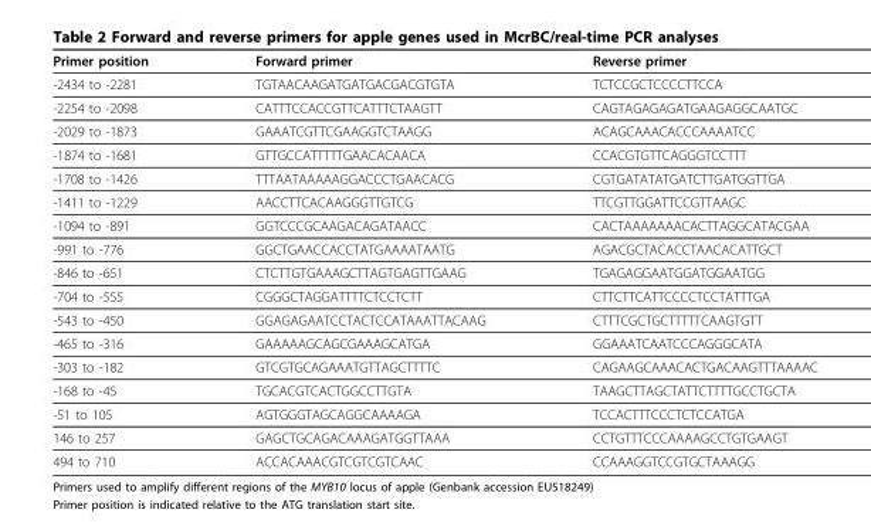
<table><thead><tr><td>Primer position</td><td>Forward primer</td><td>Reverse primer</td></tr></thead><tbody><tr><td>-2434 to -2281</td><td>TGTAACAAGATGATGACGACGTGTA</td><td>TCTCCGCTCCCCTTCCA</td></tr><tr><td>-2254 to -2098</td><td>CATTTCCACCGTTCATTTCTAAGTT</td><td>CAGTAGAGAGATGAAGAGGCAATGC</td></tr><tr><td>-2029 to -1873</td><td>GAAATCGTTCGAAGGTCTAAGG</td><td>ACAGCAAACACCCAAAATCC</td></tr><tr><td>-1874 to -1681</td><td>GTTGCCATTTTTGAACACAACA</td><td>CCACGTGTTCAGGGTCCTTT</td></tr><tr><td>-1708 to -1426</td><td>TTTAATAAAAAGGACCCTGAACACG</td><td>CGTGATATATGATCTTGATGGTTGA</td></tr><tr><td>-1411 to -1229</td><td>AACCTTCACAAGGGTTGTCG</td><td>TTCGTTGGATTCCGTTAAGC</td></tr><tr><td>-1094 to -891</td><td>GGTCCCGCAAGACAGATAACC</td><td>CACTAAAAAAACACTTAGGCATACGAA</td></tr><tr><td>-991 to -776</td><td>GGCTGAACCACCTATGAAAATAATG</td><td>AGACGCTACACCTAACACATTGCT</td></tr><tr><td>-846 to -651</td><td>CTCTTGTGAAAGCTTAGTGAGTTGAAG</td><td>TGAGAGGAATGGATGGAATGG</td></tr><tr><td>-704 to -555</td><td>CGGGCTAGGATTTTCTCCTCTT</td><td>CTTCTTCATTCCCCTCCTATTTGA</td></tr><tr><td>-543 to -450</td><td>GGAGAGAATCCTACTCCATAAATTACAAG</td><td>CTTTCGCTGCTTTTTCAAGTGTT</td></tr><tr><td>-465 to -316</td><td>GAAAAAGCAGCGAAAGCATGA</td><td>GGAAATCAATCCCAGGGCATA</td></tr><tr><td>-303 to -182</td><td>GTCGTGCAGAAATGTTAGCTTTTC</td><td>CAGAAGCAAACACTGACAAGTTTAAAAC</td></tr><tr><td>-168 to -45</td><td>TGCACGTCACTGGCCTTGTA</td><td>TAAGCTTAGCTATTCTTTTGCCTGCTA</td></tr><tr><td>-51 to 105</td><td>AGTGGGTAGCAGGCAAAAGA</td><td>TCCACTTTCCCTCTCCATGA</td></tr><tr><td>146 to 257</td><td>GAGCTGCAGACAAAGATGGTTAAA</td><td>CCTGTTTCCCAAAAGCCTGTGAAGT</td></tr><tr><td>494 to 710</td><td>ACCACAAACGTCGTCGTCAAC</td><td>CCAAAGGTCCGTGCTAAAGG</td></tr></tbody></table>